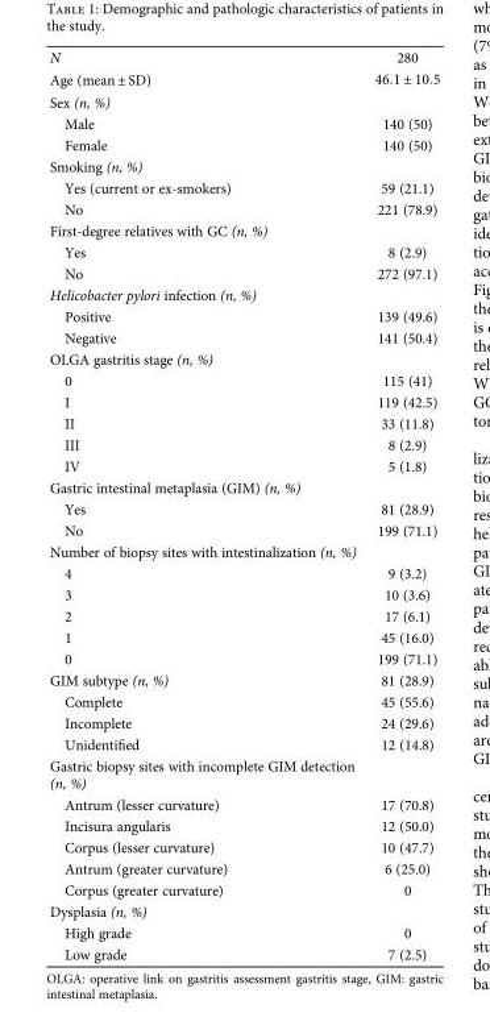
<table><tbody><tr><td>N</td><td>280</td></tr><tr><td>Age (mean ± SD)</td><td>46 1 ± 10 5</td></tr><tr><td colspan="2">Sex (n, %)</td></tr><tr><td>Male</td><td>140 (50)</td></tr><tr><td>Female</td><td>140 (50)</td></tr><tr><td colspan="2">Smoking (n, %)</td></tr><tr><td>Yes (current or ex-smokers)</td><td>59 (21.1)</td></tr><tr><td>No</td><td>221 (78.9)</td></tr><tr><td colspan="2">First-degree relatives with GC (n, %)</td></tr><tr><td>Yes</td><td>8 (2.9)</td></tr><tr><td>No</td><td>272 (97.1)</td></tr><tr><td colspan="2">Helicobacter pylori infection (n, %)</td></tr><tr><td>Positive</td><td>139 (49.6)</td></tr><tr><td>Negative</td><td>141 (50.4)</td></tr><tr><td colspan="2">OLGA gastritis stage (n, %)</td></tr><tr><td>0</td><td>115 (41)</td></tr><tr><td>I</td><td>119 (42.5)</td></tr><tr><td>II</td><td>33 (11.8)</td></tr><tr><td>III</td><td>8 (2.9)</td></tr><tr><td>IV</td><td>5 (1.8)</td></tr><tr><td colspan="2">Gastric intestinal metaplasia (GIM) (n, %)</td></tr><tr><td>Yes</td><td>81 (28.9)</td></tr><tr><td>No</td><td>199 (71.1)</td></tr><tr><td colspan="2">Number of biopsy sites with intestinalization (n, %)</td></tr><tr><td>4</td><td>9 (3.2)</td></tr><tr><td>3</td><td>10 (3.6)</td></tr><tr><td>2</td><td>17 (6.1)</td></tr><tr><td>1</td><td>45 (16.0)</td></tr><tr><td>0</td><td>199 (71.1)</td></tr><tr><td>GIM subtype (n, %)</td><td>81 (28.9)</td></tr><tr><td>Complete</td><td>45 (55.6)</td></tr><tr><td>Incomplete</td><td>24 (29.6)</td></tr><tr><td>Unidentified</td><td>12 (14.8)</td></tr><tr><td colspan="2">Gastric biopsy sites with incomplete GIM detection (n, %)</td></tr><tr><td>Antrum (lesser curvature)</td><td>17 (70.8)</td></tr><tr><td>Incisura angularis</td><td>12 (50.0)</td></tr><tr><td>Corpus (lesser curvature)</td><td>10 (47.7)</td></tr><tr><td>Antrum (greater curvature)</td><td>6 (25.0)</td></tr><tr><td>Corpus (greater curvature)</td><td>0</td></tr><tr><td colspan="2">Dysplasia (n, %)</td></tr><tr><td>High grade</td><td>0</td></tr><tr><td>Low grade</td><td>7 (2.5)</td></tr></tbody></table>